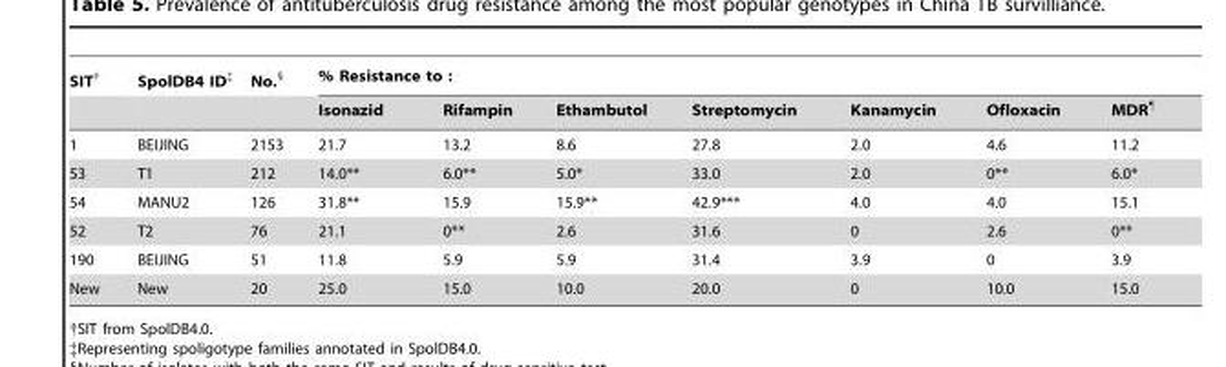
<table><thead><tr><td rowspan="2">SIT†</td><td rowspan="2">SpolDB4 ID‡</td><td rowspan="2">No.§</td><td colspan="7">% Resistance to :</td></tr><tr><td>Isonazid</td><td>Rifampin</td><td>Ethambutol</td><td>Streptomycin</td><td>Kanamycin</td><td>Ofloxacin</td><td>MDR¶</td></tr></thead><tbody><tr><td>1</td><td>BEIJING</td><td>2153</td><td>21.7</td><td>13.2</td><td>8.6</td><td>27.8</td><td>2.0</td><td>4.6</td><td>11.2</td></tr><tr><td>53</td><td>T1</td><td>212</td><td>14.0**</td><td>6.0**</td><td>5.0*</td><td>33.0</td><td>2.0</td><td>0**</td><td>6.0*</td></tr><tr><td>54</td><td>MANU2</td><td>126</td><td>31.8**</td><td>15.9</td><td>15.9**</td><td>42.9***</td><td>4.0</td><td>4.0</td><td>15.1</td></tr><tr><td>52</td><td>T2</td><td>76</td><td>21.1</td><td>0**</td><td>2.6</td><td>31.6</td><td>0</td><td>2.6</td><td>0**</td></tr><tr><td>190</td><td>BEIJING</td><td>51</td><td>11.8</td><td>5.9</td><td>5.9</td><td>31.4</td><td>3.9</td><td>0</td><td>3.9</td></tr><tr><td>New</td><td>New</td><td>20</td><td>25.0</td><td>15.0</td><td>10.0</td><td>20.0</td><td>0</td><td>10.0</td><td>15.0</td></tr></tbody></table>